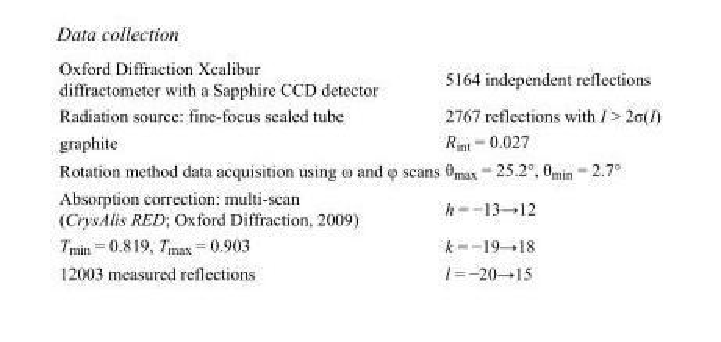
<table><tbody><tr><td>Oxford Diffraction Xcalibur diffractometer with a Sapphire CCD detector</td><td>5164 independent reflections</td></tr><tr><td>Radiation source: fine-focus sealed tube</td><td>2767 reflections with I &gt; 2σ(I)</td></tr><tr><td>graphite</td><td>R<sub>int</sub> = 0.027</td></tr><tr><td>Rotation method data acquisition using ω and φ scans</td><td>θ<sub>max</sub> = 25.2°, θ<sub>min</sub> = 2.7°</td></tr><tr><td>Absorption correction: multi-scan (CrysAlis RED; Oxford Diffraction, 2009)</td><td>h = −13→12</td></tr><tr><td>T<sub>min</sub> = 0.819, T<sub>max</sub> = 0.903</td><td>k = −19→18</td></tr><tr><td>12003 measured reflections</td><td>l = −20→15</td></tr></tbody></table>